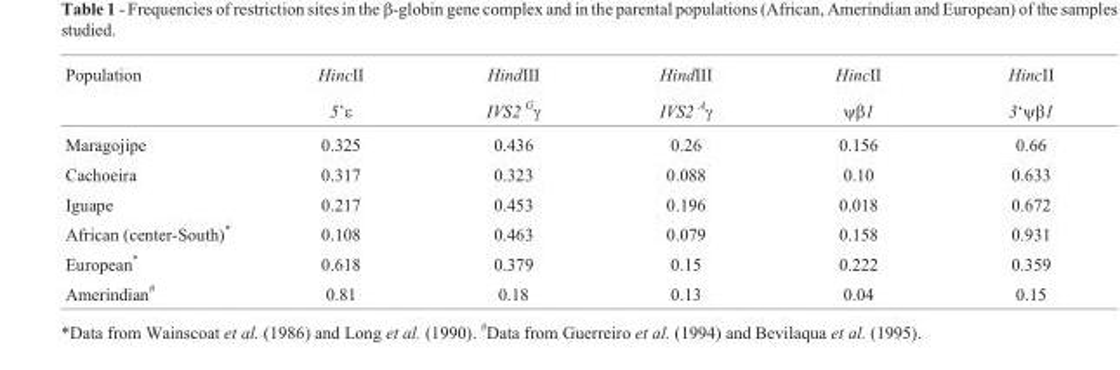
<table><thead><tr><td rowspan="2">Population</td><td rowspan="2">HincII 5’ε</td><td rowspan="2">HindIII IVS2 <sup>G</sup>γ</td><td rowspan="2">HindIII IVS2 <sup>A</sup>γ</td><td rowspan="2">HincII ψβ1</td><td rowspan="2">HincII 3‘ψβ1</td></tr><tr></tr></thead><tbody><tr><td>Maragojipe</td><td>0.325</td><td>0.436</td><td>0.26</td><td>0.156</td><td>0.66</td></tr><tr><td>Cachoeira</td><td>0.317</td><td>0.323</td><td>0.088</td><td>0.10</td><td>0.633</td></tr><tr><td>Iguape</td><td>0.217</td><td>0.453</td><td>0.196</td><td>0.018</td><td>0.672</td></tr><tr><td>African (center-South)*</td><td>0.108</td><td>0.463</td><td>0.079</td><td>0.158</td><td>0.931</td></tr><tr><td>European*</td><td>0.618</td><td>0.379</td><td>0.15</td><td>0.222</td><td>0.359</td></tr><tr><td>Amerindian<sup>#</sup></td><td>0.81</td><td>0.18</td><td>0.13</td><td>0.04</td><td>0.15</td></tr></tbody></table>